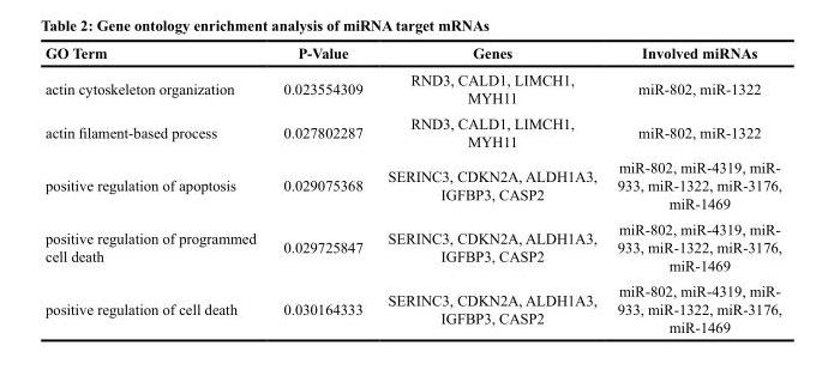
<table><thead><tr><td>GO Term</td><td>P-Value</td><td>Genes</td><td>Involved miRNAs</td></tr></thead><tbody><tr><td>actin cytoskeleton organization</td><td>0.023554309</td><td>RND3, CALD1, LIMCH1, MYH11</td><td>miR-802, miR-1322</td></tr><tr><td>actin filament-based process</td><td>0.027802287</td><td>RND3, CALD1, LIMCH1, MYH11</td><td>miR-802, miR-1322</td></tr><tr><td>positive regulation of apoptosis</td><td>0.029075368</td><td>SERINC3, CDKN2A, ALDH1A3, IGFBP3, CASP2</td><td>miR-802, miR-4319, miR- 933, miR-1322, miR-3176, miR-1469</td></tr><tr><td>positive regulation of programmed cell death</td><td>0.029725847</td><td>SERINC3, CDKN2A, ALDH1A3, IGFBP3, CASP2</td><td>miR-802, miR-4319, miR- 933, miR-1322, miR-3176, miR-1469</td></tr><tr><td>positive regulation of cell death</td><td>0.030164333</td><td>SERINC3, CDKN2A, ALDH1A3, IGFBP3, CASP2</td><td>miR-802, miR-4319, miR- 933, miR-1322, miR-3176, miR-1469</td></tr></tbody></table>